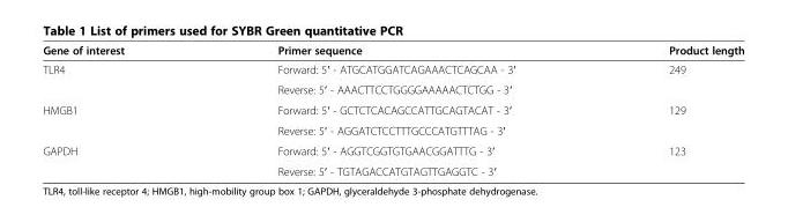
<table><thead><tr><td>Gene of interest</td><td>Primer sequence</td><td>Product length</td></tr></thead><tbody><tr><td rowspan="2">TLR4</td><td>Forward: 5′ - ATGCATGGATCAGAAACTCAGCAA - 3′</td><td rowspan="2">249</td></tr><tr><td>Reverse: 5′ - AAACTTCCTGGGGAAAAACTCTGG - 3′</td></tr><tr><td rowspan="2">HMGB1</td><td>Forward: 5′ - GCTCTCACAGCCATTGCAGTACAT - 3′</td><td rowspan="2">129</td></tr><tr><td>Reverse: 5′ - AGGATCTCCTTTGCCCATGTTTAG - 3′</td></tr><tr><td rowspan="2">GAPDH</td><td>Forward: 5′ - AGGTCGGTGTGAACGGATTTG - 3′</td><td rowspan="2">123</td></tr><tr><td>Reverse: 5′ - TGTAGACCATGTAGTTGAGGTC - 3′</td></tr></tbody></table>